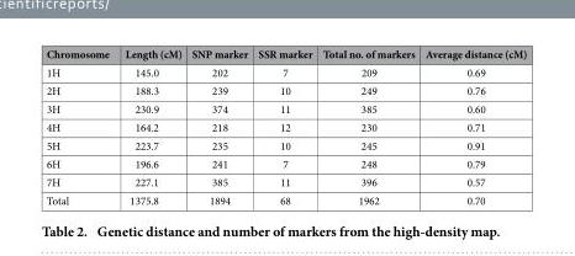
<table><thead><tr><td>Chromosome</td><td>Length (cM)</td><td>SNP marker</td><td>SSR marker</td><td>Total no. of markers</td><td>Average distance (cM)</td></tr></thead><tbody><tr><td>1H</td><td>145.0</td><td>202</td><td>7</td><td>209</td><td>0.69</td></tr><tr><td>2H</td><td>188.3</td><td>239</td><td>10</td><td>249</td><td>0.76</td></tr><tr><td>3H</td><td>230.9</td><td>374</td><td>11</td><td>385</td><td>0.60</td></tr><tr><td>4H</td><td>164.2</td><td>218</td><td>12</td><td>230</td><td>0.71</td></tr><tr><td>5H</td><td>223.7</td><td>235</td><td>10</td><td>245</td><td>0.91</td></tr><tr><td>6H</td><td>196.6</td><td>241</td><td>7</td><td>248</td><td>0.79</td></tr><tr><td>7H</td><td>227.1</td><td>385</td><td>11</td><td>396</td><td>0.57</td></tr><tr><td>Total</td><td>1375.8</td><td>1894</td><td>68</td><td>1962</td><td>0.70</td></tr></tbody></table>